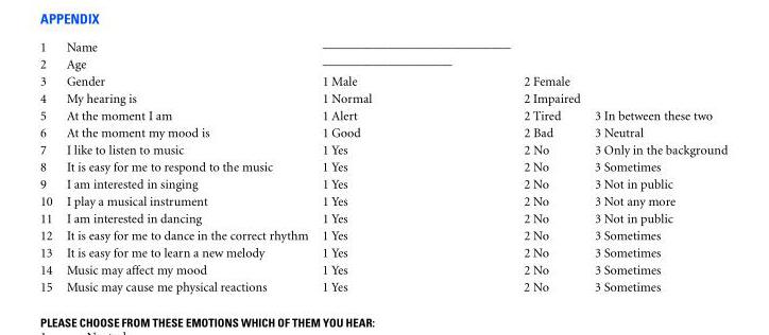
<table><tbody><tr><td>1</td><td>Name</td><td>——————————————–</td><td></td><td></td></tr><tr><td>2</td><td>Age</td><td>——————————</td><td></td><td></td></tr><tr><td>3</td><td>Gender</td><td>1 Male</td><td>2 Female</td><td></td></tr><tr><td>4</td><td>My hearing is</td><td>1 Normal</td><td>2 Impaired</td><td></td></tr><tr><td>5</td><td>At the moment I am</td><td>1 Alert</td><td>2 Tired</td><td>3 In between these two</td></tr><tr><td>6</td><td>At the moment my mood is</td><td>1 Good</td><td>2 Bad</td><td>3 Neutral</td></tr><tr><td>7</td><td>I like to listen to music</td><td>1 Yes</td><td>2 No</td><td>3 Only in the background</td></tr><tr><td>8</td><td>It is easy for me to respond to the music</td><td>1 Yes</td><td>2 No</td><td>3 Sometimes</td></tr><tr><td>9</td><td>I am interested in singing</td><td>1 Yes</td><td>2 No</td><td>3 Not in public</td></tr><tr><td>10</td><td>I play a musical instrument</td><td>1 Yes</td><td>2 No</td><td>3 Not any more</td></tr><tr><td>11</td><td>I am interested in dancing</td><td>1 Yes</td><td>2 No</td><td>3 Not in public</td></tr><tr><td>12</td><td>It is easy for me to dance in the correct rhythm</td><td>1 Yes</td><td>2 No</td><td>3 Sometimes</td></tr><tr><td>13</td><td>It is easy for me to learn a new melody</td><td>1 Yes</td><td>2 No</td><td>3 Sometimes</td></tr><tr><td>14</td><td>Music may affect my mood</td><td>1 Yes</td><td>2 No</td><td>3 Sometimes</td></tr><tr><td>15</td><td>Music may cause me physical reactions</td><td>1 Yes</td><td>2 No</td><td>3 Sometimes</td></tr></tbody></table>